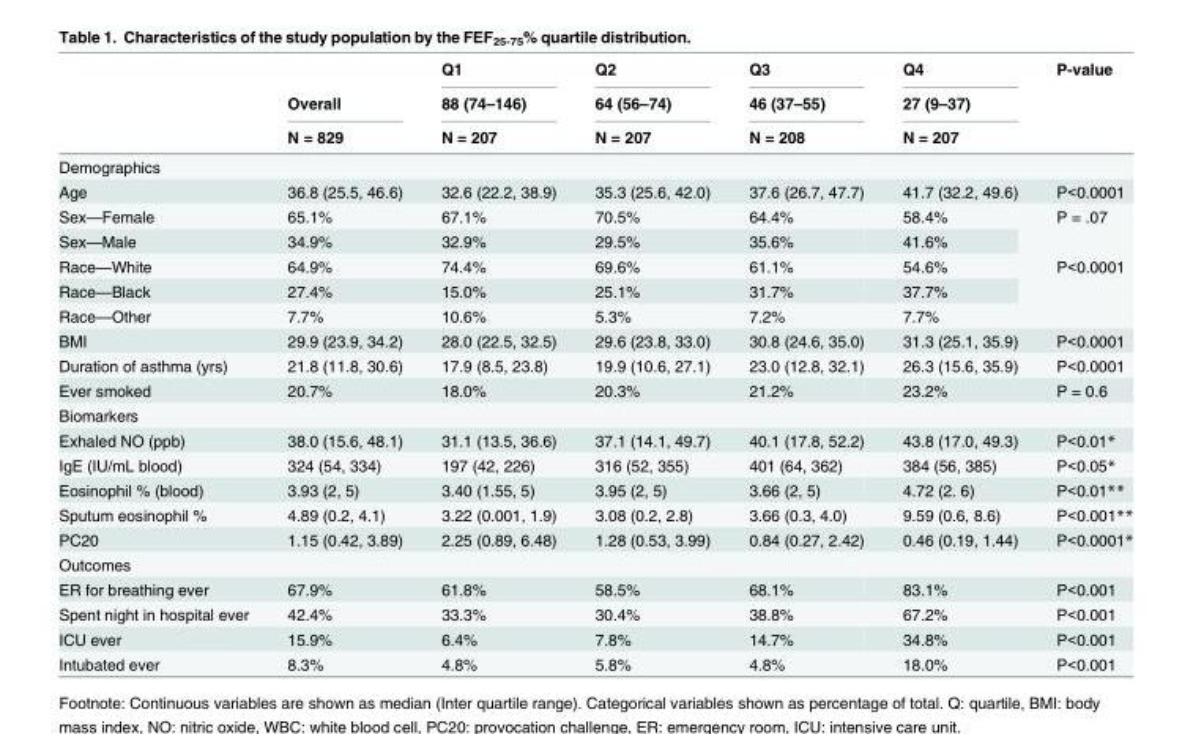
<table><thead><tr><td rowspan="3"></td><td rowspan="3">Overall N = 829</td><td rowspan="3">Q1 88 (74–146) N = 207</td><td rowspan="3">Q2 64 (56–74) N = 207</td><td rowspan="3">Q3 46 (37–55) N = 208</td><td rowspan="3">Q4 27 (9–37) N = 207</td><td rowspan="3">P-value</td></tr><tr></tr><tr></tr></thead><tbody><tr><td colspan="7">Demographics</td></tr><tr><td>Age</td><td>36.8 (25.5, 46.6)</td><td>32.6 (22.2, 38.9)</td><td>35.3 (25.6, 42.0)</td><td>37.6 (26.7, 47.7)</td><td>41.7 (32.2, 49.6)</td><td>P&lt;0.0001</td></tr><tr><td>Sex—Female</td><td>65.1%</td><td>67.1%</td><td>70.5%</td><td>64.4%</td><td>58.4%</td><td rowspan="2">P = .07</td></tr><tr><td>Sex—Male</td><td>34.9%</td><td>32.9%</td><td>29.5%</td><td>35.6%</td><td>41.6%</td></tr><tr><td>Race—White</td><td>64.9%</td><td>74.4%</td><td>69.6%</td><td>61.1%</td><td>54.6%</td><td rowspan="3">P&lt;0.0001</td></tr><tr><td>Race—Black</td><td>27.4%</td><td>15.0%</td><td>25.1%</td><td>31.7%</td><td>37.7%</td></tr><tr><td>Race—Other</td><td>7.7%</td><td>10.6%</td><td>5.3%</td><td>7.2%</td><td>7.7%</td></tr><tr><td>BMI</td><td>29.9 (23.9, 34.2)</td><td>28.0 (22.5, 32.5)</td><td>29.6 (23.8, 33.0)</td><td>30.8 (24.6, 35.0)</td><td>31.3 (25.1, 35.9)</td><td>P&lt;0.0001</td></tr><tr><td>Duration of asthma (yrs)</td><td>21.8 (11.8, 30.6)</td><td>17.9 (8.5, 23.8)</td><td>19.9 (10.6, 27.1)</td><td>23.0 (12.8, 32.1)</td><td>26.3 (15.6, 35.9)</td><td>P&lt;0.0001</td></tr><tr><td>Ever smoked</td><td>20.7%</td><td>18.0%</td><td>20.3%</td><td>21.2%</td><td>23.2%</td><td>P = 0.6</td></tr><tr><td colspan="7">Biomarkers</td></tr><tr><td>Exhaled NO (ppb)</td><td>38.0 (15.6, 48.1)</td><td>31.1 (13.5, 36.6)</td><td>37.1 (14.1, 49.7)</td><td>40.1 (17.8, 52.2)</td><td>43.8 (17.0, 49.3)</td><td>P&lt;0.01*</td></tr><tr><td>IgE (IU/mL blood)</td><td>324 (54, 334)</td><td>197 (42, 226)</td><td>316 (52, 355)</td><td>401 (64, 362)</td><td>384 (56, 385)</td><td>P&lt;0.05*</td></tr><tr><td>Eosinophil % (blood)</td><td>3.93 (2, 5)</td><td>3.40 (1.55, 5)</td><td>3.95 (2, 5)</td><td>3.66 (2, 5)</td><td>4.72 (2. 6)</td><td>P&lt;0.01**</td></tr><tr><td>Sputum eosinophil %</td><td>4.89 (0.2, 4.1)</td><td>3.22 (0.001, 1.9)</td><td>3.08 (0.2, 2.8)</td><td>3.66 (0.3, 4.0)</td><td>9.59 (0.6, 8.6)</td><td>P&lt;0.001**</td></tr><tr><td>PC20</td><td>1.15 (0.42, 3.89)</td><td>2.25 (0.89, 6.48)</td><td>1.28 (0.53, 3.99)</td><td>0.84 (0.27, 2.42)</td><td>0.46 (0.19, 1.44)</td><td>P&lt;0.0001*</td></tr><tr><td colspan="7">Outcomes</td></tr><tr><td>ER for breathing ever</td><td>67.9%</td><td>61.8%</td><td>58.5%</td><td>68.1%</td><td>83.1%</td><td>P&lt;0.001</td></tr><tr><td>Spent night in hospital ever</td><td>42.4%</td><td>33.3%</td><td>30.4%</td><td>38.8%</td><td>67.2%</td><td>P&lt;0.001</td></tr><tr><td>ICU ever</td><td>15.9%</td><td>6.4%</td><td>7.8%</td><td>14.7%</td><td>34.8%</td><td>P&lt;0.001</td></tr><tr><td>Intubated ever</td><td>8.3%</td><td>4.8%</td><td>5.8%</td><td>4.8%</td><td>18.0%</td><td>P&lt;0.001</td></tr></tbody></table>